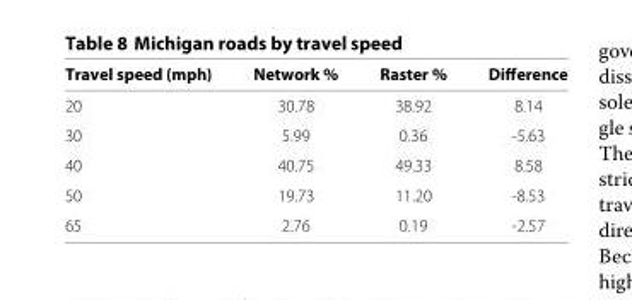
<table><thead><tr><td>Travel speed (mph)</td><td>Network %</td><td>Raster %</td><td>Difference</td></tr></thead><tbody><tr><td>20</td><td>30.78</td><td>38.92</td><td>8.14</td></tr><tr><td>30</td><td>5.99</td><td>0.36</td><td>-5.63</td></tr><tr><td>40</td><td>40.75</td><td>49.33</td><td>8.58</td></tr><tr><td>50</td><td>19.73</td><td>11.20</td><td>-8.53</td></tr><tr><td>65</td><td>2.76</td><td>0.19</td><td>-2.57</td></tr></tbody></table>